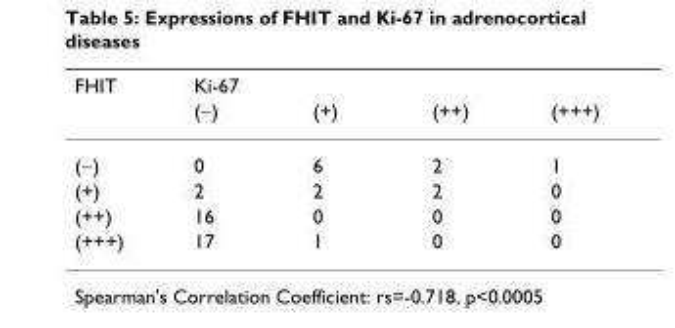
<table><thead><tr><td rowspan="2">FHIT</td><td colspan="4">Ki-67</td></tr><tr><td>(−)</td><td>(+)</td><td>(++)</td><td>(+++)</td></tr></thead><tbody><tr><td>(−)</td><td>0</td><td>6</td><td>2</td><td>1</td></tr><tr><td>(+)</td><td>2</td><td>2</td><td>2</td><td>0</td></tr><tr><td>(++)</td><td>16</td><td>0</td><td>0</td><td>0</td></tr><tr><td>(+++)</td><td>17</td><td>1</td><td>0</td><td>0</td></tr></tbody></table>